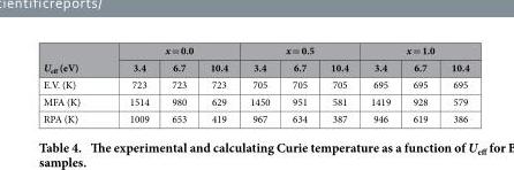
<table><thead><tr><td rowspan="2">U<sub>eff</sub> (eV)</td><td colspan="3">x = 0.0</td><td colspan="3">x = 0.5</td><td colspan="3">x = 1.0</td></tr><tr><td>3.4</td><td>6.7</td><td>10.4</td><td>3.4</td><td>6.7</td><td>10.4</td><td>3.4</td><td>6.7</td><td>10.4</td></tr></thead><tbody><tr><td>E.V. (K)</td><td>723</td><td>723</td><td>723</td><td>705</td><td>705</td><td>705</td><td>695</td><td>695</td><td>695</td></tr><tr><td>MFA (K)</td><td>1514</td><td>980</td><td>629</td><td>1450</td><td>951</td><td>581</td><td>1419</td><td>928</td><td>579</td></tr><tr><td>RPA (K)</td><td>1009</td><td>653</td><td>419</td><td>967</td><td>634</td><td>387</td><td>946</td><td>619</td><td>386</td></tr></tbody></table>